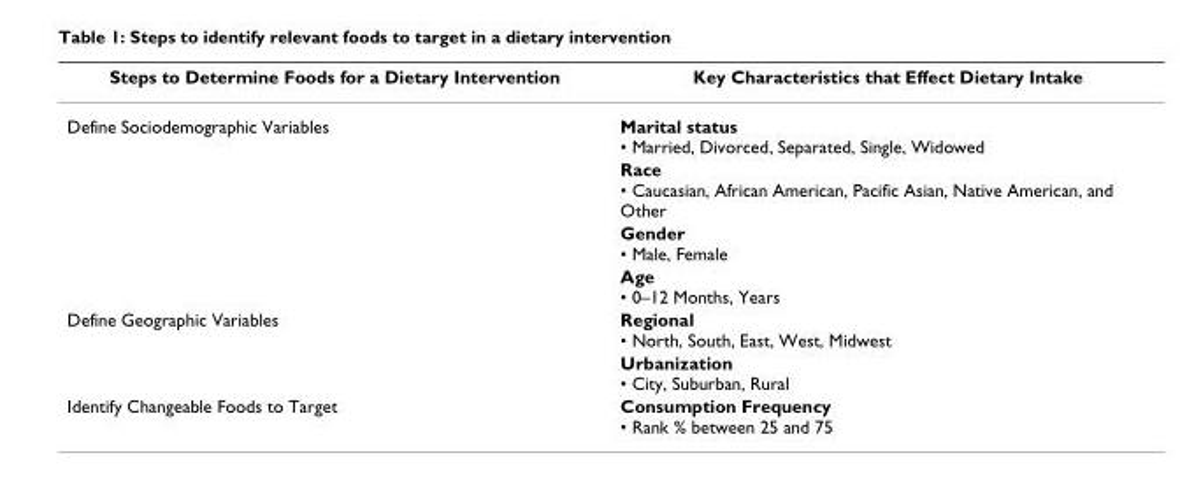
<table><thead><tr><td>Steps to Determine Foods for a Dietary Intervention</td><td>Key Characteristics that Effect Dietary Intake</td></tr></thead><tbody><tr><td rowspan="4">Define Sociodemographic Variables</td><td>Marital status • Married, Divorced, Separated, Single, Widowed</td></tr><tr><td>Race • Caucasian, African American, Pacific Asian, Native American, and Other</td></tr><tr><td>Gender • Male, Female</td></tr><tr><td>Age • 0–12 Months, Years</td></tr><tr><td rowspan="2">Define Geographic Variables</td><td>Regional • North, South, East, West, Midwest</td></tr><tr><td>Urbanization • City, Suburban, Rural</td></tr><tr><td>Identify Changeable Foods to Target</td><td>Consumption Frequency • Rank % between 25 and 75</td></tr></tbody></table>